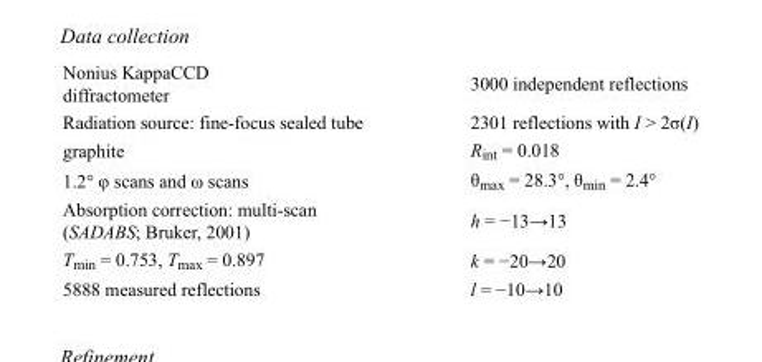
<table><tbody><tr><td>Nonius KappaCCD diffractometer</td><td>3000 independent reflections</td></tr><tr><td>Radiation source: fine-focus sealed tube</td><td>2301 reflections with I &gt; 2σ(I)</td></tr><tr><td>graphite</td><td>R<sub>int</sub> = 0.018</td></tr><tr><td>1.2° φ scans and ω scans</td><td>θ<sub>max</sub> = 28.3°, θ<sub>min</sub> = 2.4°</td></tr><tr><td>Absorption correction: multi-scan (SADABS; Bruker, 2001)</td><td>h = −13→13</td></tr><tr><td>T<sub>min</sub> = 0.753, T<sub>max</sub> = 0.897</td><td>k = −20→20</td></tr><tr><td>5888 measured reflections</td><td>l = −10→10</td></tr></tbody></table>